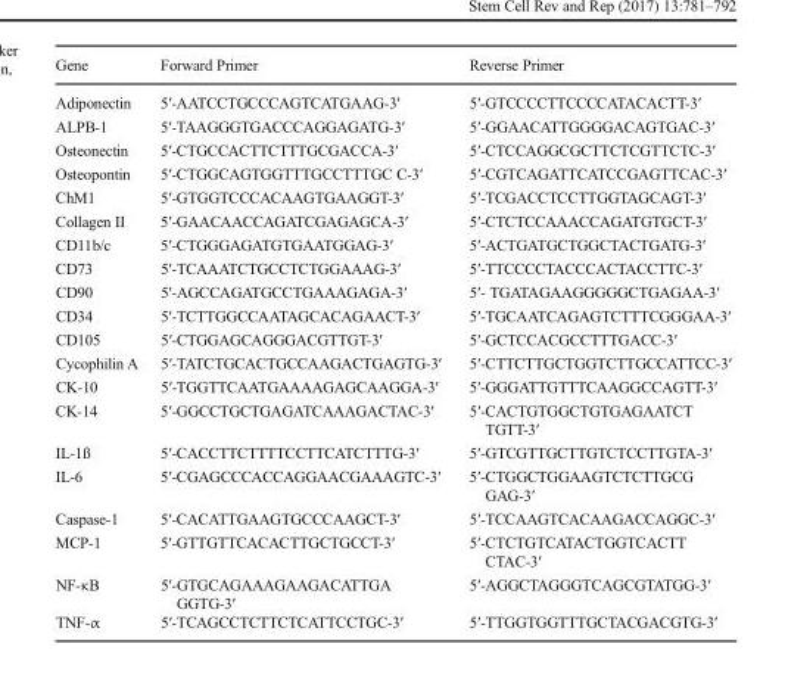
<table><thead><tr><td>Gene</td><td>Forward Primer</td><td>Reverse Primer</td></tr></thead><tbody><tr><td>Adiponectin</td><td>5′-AATCCTGCCCAGTCATGAAG-3′</td><td>5′-GTCCCCTTCCCCATACACTT-3′</td></tr><tr><td>ALPB-1</td><td>5′-TAAGGGTGACCCAGGAGATG-3′</td><td>5′-GGAACATTGGGGACAGTGAC-3′</td></tr><tr><td>Osteonectin</td><td>5′-CTGCCACTTCTTTGCGACCA-3′</td><td>5′-CTCCAGGCGCTTCTCGTTCTC-3′</td></tr><tr><td>Osteopontin</td><td>5′-CTGGCAGTGGTTTGCCTTTGC C-3′</td><td>5′-CGTCAGATTCATCCGAGTTCAC-3′</td></tr><tr><td>ChM1</td><td>5′-GTGGTCCCACAAGTGAAGGT-3′</td><td>5′-TCGACCTCCTTGGTAGCAGT-3′</td></tr><tr><td>Collagen II</td><td>5′-GAACAACCAGATCGAGAGCA-3′</td><td>5′-CTCTCCAAACCAGATGTGCT-3′</td></tr><tr><td>CD11b/c</td><td>5′-CTGGGAGATGTGAATGGAG-3′</td><td>5′-ACTGATGCTGGCTACTGATG-3′</td></tr><tr><td>CD73</td><td>5′-TCAAATCTGCCTCTGGAAAG-3′</td><td>5′-TTCCCCTACCCACTACCTTC-3′</td></tr><tr><td>CD90</td><td>5′-AGCCAGATGCCTGAAAGAGA-3′</td><td>5′- TGATAGAAGGGGGCTGAGAA-3′</td></tr><tr><td>CD34</td><td>5′-TCTTGGCCAATAGCACAGAACT-3′</td><td>5′-TGCAATCAGAGTCTTTCGGGAA-3′</td></tr><tr><td>CD105</td><td>5′-CTGGAGCAGGGACGTTGT-3′</td><td>5′-GCTCCACGCCTTTGACC-3′</td></tr><tr><td>Cycophilin A</td><td>5′-TATCTGCACTGCCAAGACTGAGTG-3′</td><td>5′-CTTCTTGCTGGTCTTGCCATTCC-3′</td></tr><tr><td>CK-10</td><td>5′-TGGTTCAATGAAAAGAGCAAGGA-3′</td><td>5′-GGGATTGTTTCAAGGCCAGTT-3′</td></tr><tr><td>CK-14</td><td>5′-GGCCTGCTGAGATCAAAGACTAC-3′</td><td>5′-CACTGTGGCTGTGAGAATCT TGTT-3′</td></tr><tr><td>IL-1ß</td><td>5′-CACCTTCTTTTCCTTCATCTTTG-3′</td><td>5′-GTCGTTGCTTGTCTCCTTGTA-3′</td></tr><tr><td>IL-6</td><td>5′-CGAGCCCACCAGGAACGAAAGTC-3′</td><td>5′-CTGGCTGGAAGTCTCTTGCG GAG-3′</td></tr><tr><td>Caspase-1</td><td>5′-CACATTGAAGTGCCCAAGCT-3′</td><td>5′-TCCAAGTCACAAGACCAGGC-3′</td></tr><tr><td>MCP-1</td><td>5′-GTTGTTCACACTTGCTGCCT-3′</td><td>5′-CTCTGTCATACTGGTCACTT CTAC-3′</td></tr><tr><td>NF-κB</td><td>5′-GTGCAGAAAGAAGACATTGA GGTG-3′</td><td>5′-AGGCTAGGGTCAGCGTATGG-3′</td></tr><tr><td>TNF-α</td><td>5′-TCAGCCTCTTCTCATTCCTGC-3′</td><td>5′-TTGGTGGTTTGCTACGACGTG-3′</td></tr></tbody></table>